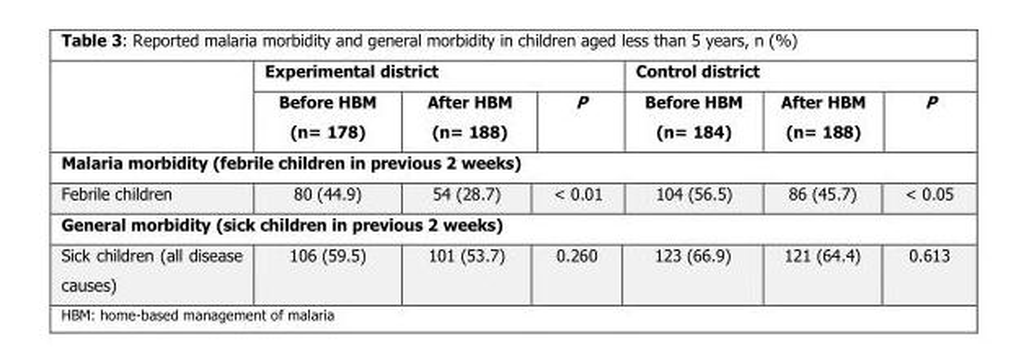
<table><thead><tr><td rowspan="2"></td><td colspan="3">Experimental district</td><td colspan="3">Control district</td></tr><tr><td>Before HBM (n= 178)</td><td>After HBM (n= 188)</td><td>P</td><td>Before HBM (n= 184)</td><td>After HBM (n= 188)</td><td>P</td></tr></thead><tbody><tr><td colspan="7">Malaria morbidity (febrile children in previous 2 weeks)</td></tr><tr><td>Febrile children</td><td>80 (44.9)</td><td>54 (28.7)</td><td>&lt; 0.01</td><td>104 (56.5)</td><td>86 (45.7)</td><td>&lt; 0.05</td></tr><tr><td colspan="7">General morbidity (sick children in previous 2 weeks)</td></tr><tr><td>Sick children (all disease causes)</td><td>106 (59.5)</td><td>101 (53.7)</td><td>0.260</td><td>123 (66.9)</td><td>121 (64.4)</td><td>0.613</td></tr></tbody></table>